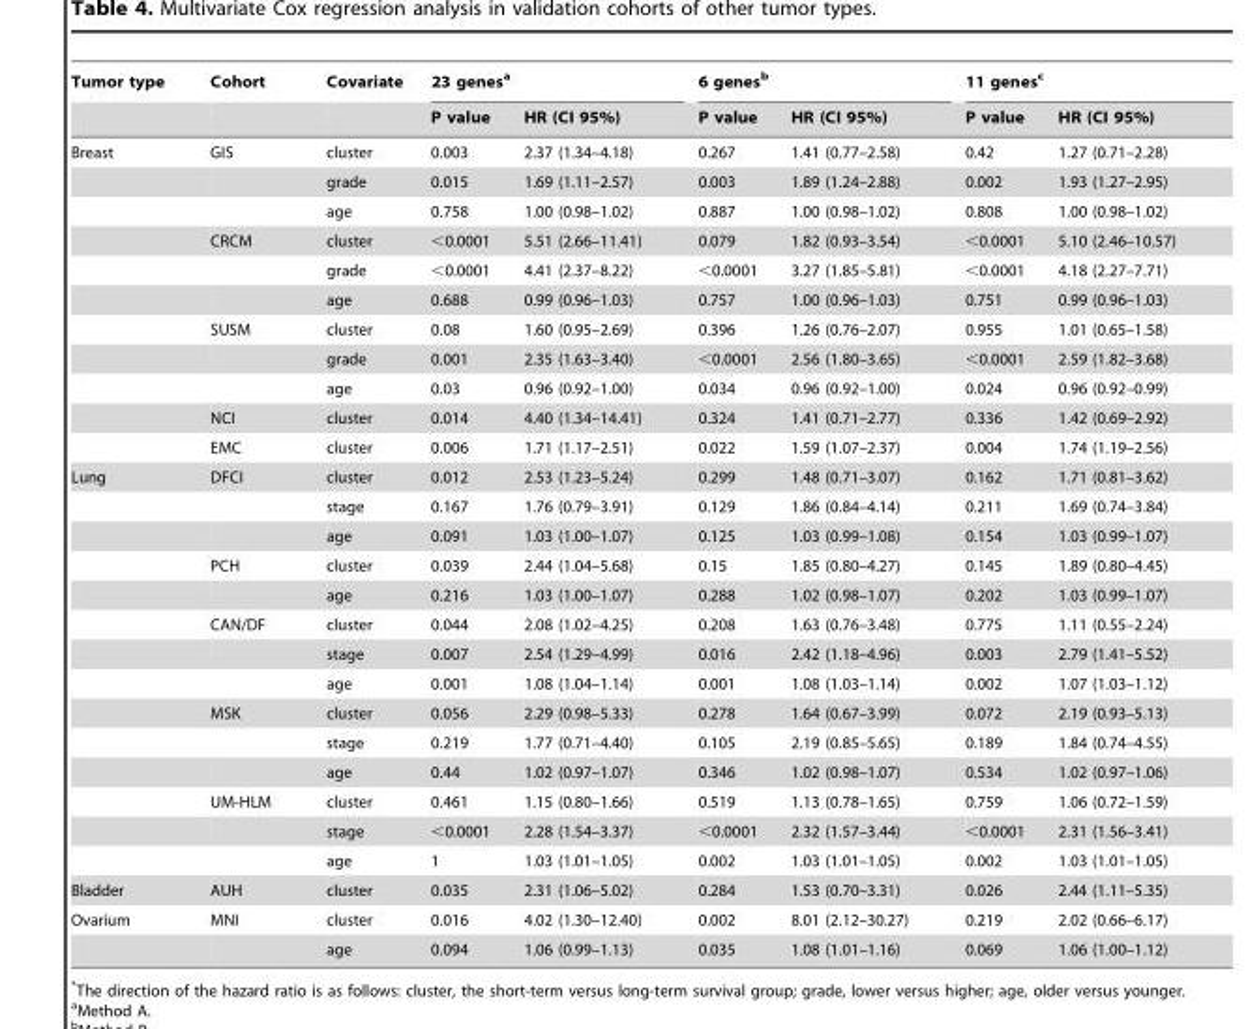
<table><thead><tr><td rowspan="2">Tumor type</td><td rowspan="2">Cohort</td><td rowspan="2">Covariate</td><td colspan="2">23 genes<sup>a</sup></td><td colspan="2">6 genes<sup>b</sup></td><td colspan="2">11 genes<sup>c</sup></td></tr><tr><td>P value</td><td>HR (CI 95%)</td><td>P value</td><td>HR (CI 95%)</td><td>P value</td><td>HR (CI 95%)</td></tr></thead><tbody><tr><td rowspan="11">Breast</td><td>GIS</td><td>cluster</td><td>0.003</td><td>2.37 (1.34–4.18)</td><td>0.267</td><td>1.41 (0.77–2.58)</td><td>0.42</td><td>1.27 (0.71–2.28)</td></tr><tr><td></td><td>grade</td><td>0.015</td><td>1.69 (1.11–2.57)</td><td>0.003</td><td>1.89 (1.24–2.88)</td><td>0.002</td><td>1.93 (1.27–2.95)</td></tr><tr><td></td><td>age</td><td>0.758</td><td>1.00 (0.98–1.02)</td><td>0.887</td><td>1.00 (0.98–1.02)</td><td>0.808</td><td>1.00 (0.98–1.02)</td></tr><tr><td>CRCM</td><td>cluster</td><td>&lt;0.0001</td><td>5.51 (2.66–11.41)</td><td>0.079</td><td>1.82 (0.93–3.54)</td><td>&lt;0.0001</td><td>5.10 (2.46–10.57)</td></tr><tr><td></td><td>grade</td><td>&lt;0.0001</td><td>4.41 (2.37–8.22)</td><td>&lt;0.0001</td><td>3.27 (1.85–5.81)</td><td>&lt;0.0001</td><td>4.18 (2.27–7.71)</td></tr><tr><td></td><td>age</td><td>0.688</td><td>0.99 (0.96–1.03)</td><td>0.757</td><td>1.00 (0.96–1.03)</td><td>0.751</td><td>0.99 (0.96–1.03)</td></tr><tr><td>SUSM</td><td>cluster</td><td>0.08</td><td>1.60 (0.95–2.69)</td><td>0.396</td><td>1.26 (0.76–2.07)</td><td>0.955</td><td>1.01 (0.65–1.58)</td></tr><tr><td></td><td>grade</td><td>0.001</td><td>2.35 (1.63–3.40)</td><td>&lt;0.0001</td><td>2.56 (1.80–3.65)</td><td>&lt;0.0001</td><td>2.59 (1.82–3.68)</td></tr><tr><td></td><td>age</td><td>0.03</td><td>0.96 (0.92–1.00)</td><td>0.034</td><td>0.96 (0.92–1.00)</td><td>0.024</td><td>0.96 (0.92–0.99)</td></tr><tr><td>NCI</td><td>cluster</td><td>0.014</td><td>4.40 (1.34–14.41)</td><td>0.324</td><td>1.41 (0.71–2.77)</td><td>0.336</td><td>1.42 (0.69–2.92)</td></tr><tr><td>EMC</td><td>cluster</td><td>0.006</td><td>1.71 (1.17–2.51)</td><td>0.022</td><td>1.59 (1.07–2.37)</td><td>0.004</td><td>1.74 (1.19–2.56)</td></tr><tr><td rowspan="14">Lung</td><td>DFCI</td><td>cluster</td><td>0.012</td><td>2.53 (1.23–5.24)</td><td>0.299</td><td>1.48 (0.71–3.07)</td><td>0.162</td><td>1.71 (0.81–3.62)</td></tr><tr><td></td><td>stage</td><td>0.167</td><td>1.76 (0.79–3.91)</td><td>0.129</td><td>1.86 (0.84–4.14)</td><td>0.211</td><td>1.69 (0.74–3.84)</td></tr><tr><td></td><td>age</td><td>0.091</td><td>1.03 (1.00–1.07)</td><td>0.125</td><td>1.03 (0.99–1.08)</td><td>0.154</td><td>1.03 (0.99–1.07)</td></tr><tr><td>PCH</td><td>cluster</td><td>0.039</td><td>2.44 (1.04–5.68)</td><td>0.15</td><td>1.85 (0.80–4.27)</td><td>0.145</td><td>1.89 (0.80–4.45)</td></tr><tr><td></td><td>age</td><td>0.216</td><td>1.03 (1.00–1.07)</td><td>0.288</td><td>1.02 (0.98–1.07)</td><td>0.202</td><td>1.03 (0.99–1.07)</td></tr><tr><td>CAN/DF</td><td>cluster</td><td>0.044</td><td>2.08 (1.02–4.25)</td><td>0.208</td><td>1.63 (0.76–3.48)</td><td>0.775</td><td>1.11 (0.55–2.24)</td></tr><tr><td></td><td>stage</td><td>0.007</td><td>2.54 (1.29–4.99)</td><td>0.016</td><td>2.42 (1.18–4.96)</td><td>0.003</td><td>2.79 (1.41–5.52)</td></tr><tr><td></td><td>age</td><td>0.001</td><td>1.08 (1.04–1.14)</td><td>0.001</td><td>1.08 (1.03–1.14)</td><td>0.002</td><td>1.07 (1.03–1.12)</td></tr><tr><td>MSK</td><td>cluster</td><td>0.056</td><td>2.29 (0.98–5.33)</td><td>0.278</td><td>1.64 (0.67–3.99)</td><td>0.072</td><td>2.19 (0.93–5.13)</td></tr><tr><td></td><td>stage</td><td>0.219</td><td>1.77 (0.71–4.40)</td><td>0.105</td><td>2.19 (0.85–5.65)</td><td>0.189</td><td>1.84 (0.74–4.55)</td></tr><tr><td></td><td>age</td><td>0.44</td><td>1.02 (0.97–1.07)</td><td>0.346</td><td>1.02 (0.98–1.07)</td><td>0.534</td><td>1.02 (0.97–1.06)</td></tr><tr><td>UM-HLM</td><td>cluster</td><td>0.461</td><td>1.15 (0.80–1.66)</td><td>0.519</td><td>1.13 (0.78–1.65)</td><td>0.759</td><td>1.06 (0.72–1.59)</td></tr><tr><td></td><td>stage</td><td>&lt;0.0001</td><td>2.28 (1.54–3.37)</td><td>&lt;0.0001</td><td>2.32 (1.57–3.44)</td><td>&lt;0.0001</td><td>2.31 (1.56–3.41)</td></tr><tr><td></td><td>age</td><td>1</td><td>1.03 (1.01–1.05)</td><td>0.002</td><td>1.03 (1.01–1.05)</td><td>0.002</td><td>1.03 (1.01–1.05)</td></tr><tr><td>Bladder</td><td>AUH</td><td>cluster</td><td>0.035</td><td>2.31 (1.06–5.02)</td><td>0.284</td><td>1.53 (0.70–3.31)</td><td>0.026</td><td>2.44 (1.11–5.35)</td></tr><tr><td rowspan="2">Ovarium</td><td>MNI</td><td>cluster</td><td>0.016</td><td>4.02 (1.30–12.40)</td><td>0.002</td><td>8.01 (2.12–30.27)</td><td>0.219</td><td>2.02 (0.66–6.17)</td></tr><tr><td></td><td>age</td><td>0.094</td><td>1.06 (0.99–1.13)</td><td>0.035</td><td>1.08 (1.01–1.16)</td><td>0.069</td><td>1.06 (1.00–1.12)</td></tr></tbody></table>